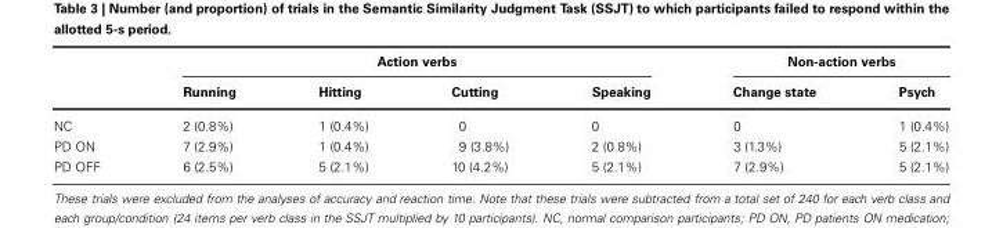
<table><thead><tr><td rowspan="2"></td><td colspan="4">Action verbs</td><td colspan="2">Non-action verbs</td></tr><tr><td>Running</td><td>Hitting</td><td>Cutting</td><td>Speaking</td><td>Change state</td><td>Psych</td></tr></thead><tbody><tr><td>NC</td><td>2 (0.8%)</td><td>1 (0.4%)</td><td>0</td><td>0</td><td>0</td><td>1 (0.4%)</td></tr><tr><td>PD ON</td><td>7 (2.9%)</td><td>1 (0.4%)</td><td>9 (3.8%)</td><td>2 (0.8%)</td><td>3 (1.3%)</td><td>5 (2.1%)</td></tr><tr><td>PD OFF</td><td>6 (2.5%)</td><td>5 (2.1%)</td><td>10 (4.2%)</td><td>5 (2.1%)</td><td>7 (2.9%)</td><td>5 (2.1%)</td></tr></tbody></table>